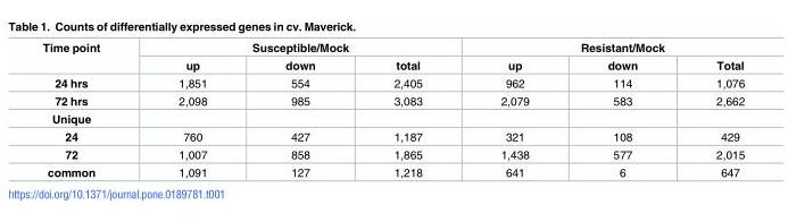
<table><thead><tr><td rowspan="2">Time point</td><td colspan="3">Susceptible/Mock</td><td colspan="3">Resistant/Mock</td></tr><tr><td>up</td><td>down</td><td>total</td><td>up</td><td>down</td><td>Total</td></tr></thead><tbody><tr><td>24 hrs</td><td>1,851</td><td>554</td><td>2,405</td><td>962</td><td>114</td><td>1,076</td></tr><tr><td>72 hrs</td><td>2,098</td><td>985</td><td>3,083</td><td>2,079</td><td>583</td><td>2,662</td></tr><tr><td colspan="7">Unique</td></tr><tr><td>24</td><td>760</td><td>427</td><td>1,187</td><td>321</td><td>108</td><td>429</td></tr><tr><td>72</td><td>1,007</td><td>858</td><td>1,865</td><td>1,438</td><td>577</td><td>2,015</td></tr><tr><td>common</td><td>1,091</td><td>127</td><td>1,218</td><td>641</td><td>6</td><td>647</td></tr></tbody></table>